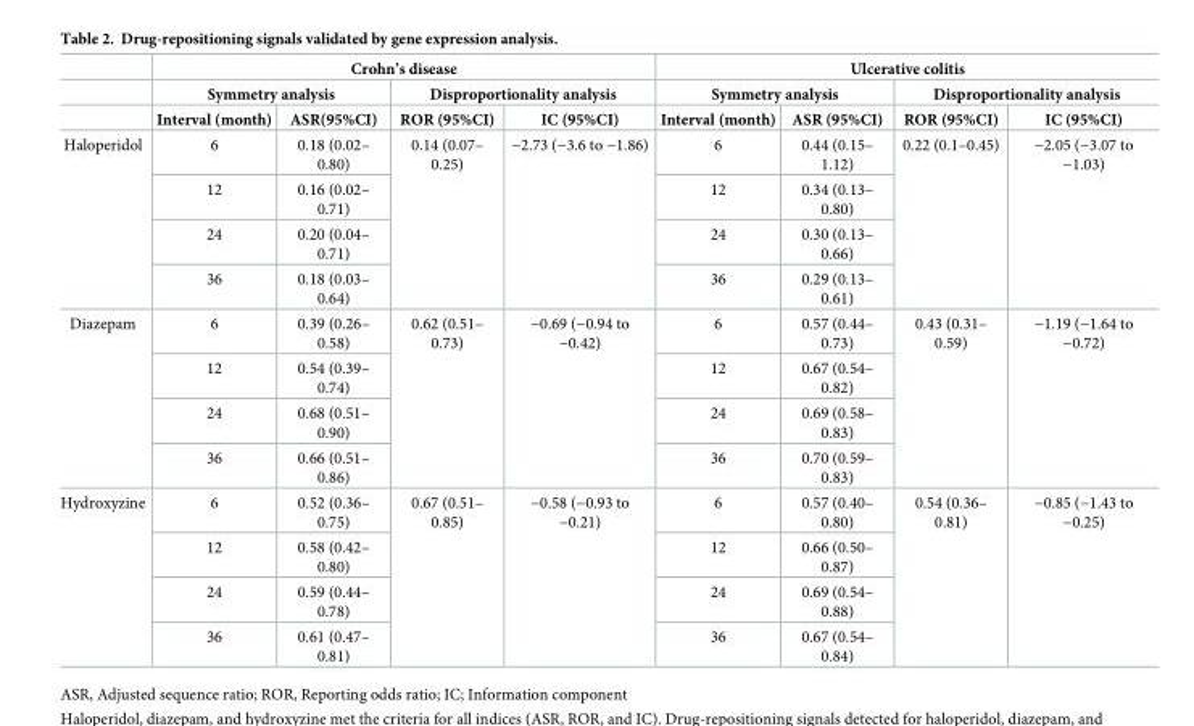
<table><thead><tr><td rowspan="3"></td><td colspan="4">Crohn’s disease</td><td colspan="4">Ulcerative colitis</td></tr><tr><td colspan="2">Symmetry analysis</td><td colspan="2">Disproportionality analysis</td><td colspan="2">Symmetry analysis</td><td colspan="2">Disproportionality analysis</td></tr><tr><td>Interval (month)</td><td>ASR(95%CI)</td><td>ROR (95%CI)</td><td>IC (95%CI)</td><td>Interval (month)</td><td>ASR (95%CI)</td><td>ROR (95%CI)</td><td>IC (95%CI)</td></tr></thead><tbody><tr><td rowspan="4">Haloperidol</td><td>6</td><td>0.18 (0.02– 0.80)</td><td rowspan="4">0.14 (0.07– 0.25)</td><td rowspan="4">−2.73 (−3.6 to −1.86)</td><td>6</td><td>0.44 (0.15– 1.12)</td><td rowspan="4">0.22 (0.1–0.45)</td><td rowspan="4">−2.05 (−3.07 to −1.03)</td></tr><tr><td>12</td><td>0.16 (0.02– 0.71)</td><td>12</td><td>0.34 (0.13– 0.80)</td></tr><tr><td>24</td><td>0.20 (0.04– 0.71)</td><td>24</td><td>0.30 (0.13– 0.66)</td></tr><tr><td>36</td><td>0.18 (0.03– 0.64)</td><td>36</td><td>0.29 (0.13– 0.61)</td></tr><tr><td rowspan="4">Diazepam</td><td>6</td><td>0.39 (0.26– 0.58)</td><td rowspan="4">0.62 (0.51– 0.73)</td><td rowspan="4">−0.69 (−0.94 to −0.42)</td><td>6</td><td>0.57 (0.44– 0.73)</td><td rowspan="4">0.43 (0.31– 0.59)</td><td rowspan="4">−1.19 (−1.64 to −0.72)</td></tr><tr><td>12</td><td>0.54 (0.39– 0.74)</td><td>12</td><td>0.67 (0.54– 0.82)</td></tr><tr><td>24</td><td>0.68 (0.51– 0.90)</td><td>24</td><td>0.69 (0.58– 0.83)</td></tr><tr><td>36</td><td>0.66 (0.51– 0.86)</td><td>36</td><td>0.70 (0.59– 0.83)</td></tr><tr><td rowspan="4">Hydroxyzine</td><td>6</td><td>0.52 (0.36– 0.75)</td><td rowspan="4">0.67 (0.51– 0.85)</td><td rowspan="4">−0.58 (−0.93 to −0.21)</td><td>6</td><td>0.57 (0.40– 0.80)</td><td rowspan="4">0.54 (0.36– 0.81)</td><td rowspan="4">−0.85 (−1.43 to −0.25)</td></tr><tr><td>12</td><td>0.58 (0.42– 0.80)</td><td>12</td><td>0.66 (0.50– 0.87)</td></tr><tr><td>24</td><td>0.59 (0.44– 0.78)</td><td>24</td><td>0.69 (0.54– 0.88)</td></tr><tr><td>36</td><td>0.61 (0.47– 0.81)</td><td>36</td><td>0.67 (0.54– 0.84)</td></tr></tbody></table>